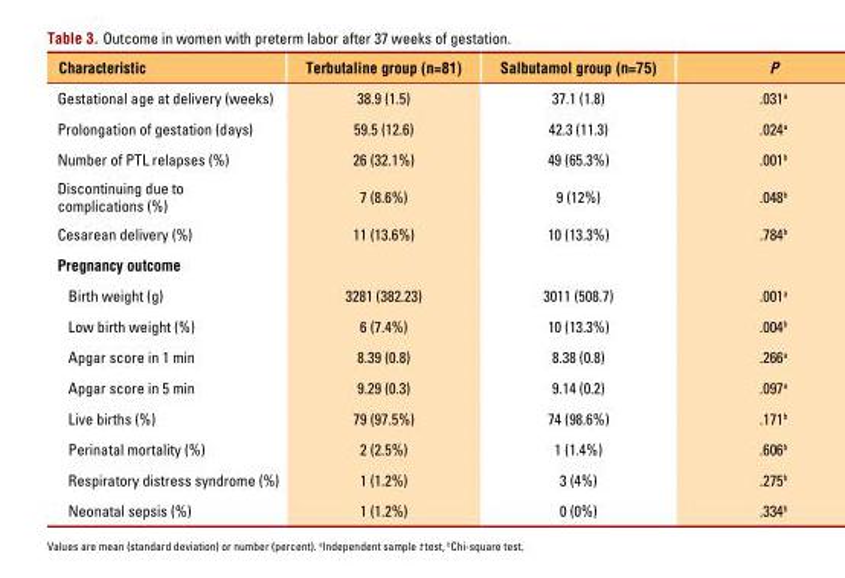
<table><thead><tr><td>Characteristic</td><td>Terbutaline group (n=81)</td><td>Salbutamol group (n=75)</td><td>P</td></tr></thead><tbody><tr><td>Gestational age at delivery (weeks)</td><td>38.9 (1.5)</td><td>37.1 (1.8)</td><td>.031<sup>a</sup></td></tr><tr><td>Prolongation of gestation (days)</td><td>59.5 (12.6)</td><td>42.3 (11.3)</td><td>.024<sup>a</sup></td></tr><tr><td>Number of PTL relapses (%)</td><td>26 (32.1%)</td><td>49 (65.3%)</td><td>.001<sup>b</sup></td></tr><tr><td>Discontinuing due to complications (%)</td><td>7 (8.6%)</td><td>9 (12%)</td><td>.048<sup>b</sup></td></tr><tr><td>Cesarean delivery (%)</td><td>11 (13.6%)</td><td>10 (13.3%)</td><td>.784<sup>b</sup></td></tr><tr><td colspan="4">Pregnancy outcome</td></tr><tr><td>Birth weight (g)</td><td>3281 (382.23)</td><td>3011 (508.7)</td><td>.001<sup>a</sup></td></tr><tr><td>Low birth weight (%)</td><td>6 (7.4%)</td><td>10 (13.3%)</td><td>.004<sup>b</sup></td></tr><tr><td>Apgar score in 1 min</td><td>8.39 (0.8)</td><td>8.38 (0.8)</td><td>.266<sup>a</sup></td></tr><tr><td>Apgar score in 5 min</td><td>9.29 (0.3)</td><td>9.14 (0.2)</td><td>.097<sup>a</sup></td></tr><tr><td>Live births (%)</td><td>79 (97.5%)</td><td>74 (98.6%)</td><td>.171<sup>b</sup></td></tr><tr><td>Perinatal mortality (%)</td><td>2 (2.5%)</td><td>1 (1.4%)</td><td>.606<sup>b</sup></td></tr><tr><td>Respiratory distress syndrome (%)</td><td>1 (1.2%)</td><td>3 (4%)</td><td>.275<sup>b</sup></td></tr><tr><td>Neonatal sepsis (%)</td><td>1 (1.2%)</td><td>0 (0%)</td><td>.334<sup>b</sup></td></tr></tbody></table>